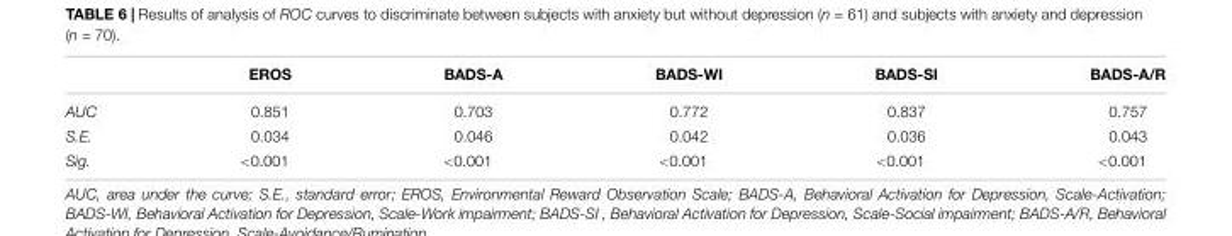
<table><thead><tr><td></td><td>EROS</td><td>BADS-A</td><td>BADS-WI</td><td>BADS-SI</td><td>BADS-A/R</td></tr></thead><tbody><tr><td>AUC</td><td>0.851</td><td>0.703</td><td>0.772</td><td>0.837</td><td>0.757</td></tr><tr><td>S.E.</td><td>0.034</td><td>0.046</td><td>0.042</td><td>0.036</td><td>0.043</td></tr><tr><td>Sig.</td><td>&lt;0.001</td><td>&lt;0.001</td><td>&lt;0.001</td><td>&lt;0.001</td><td>&lt;0.001</td></tr></tbody></table>